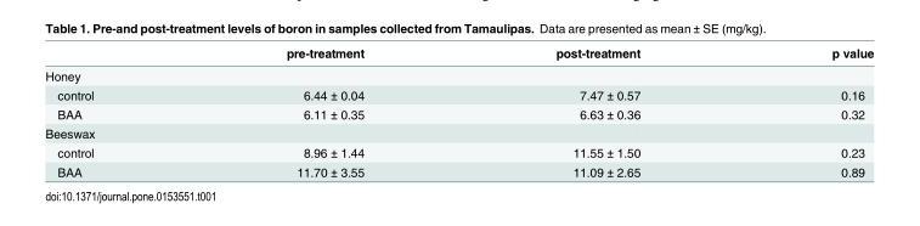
<table><thead><tr><td></td><td>pre-treatment</td><td>post-treatment</td><td>p value</td></tr></thead><tbody><tr><td colspan="4">Honey</td></tr><tr><td>control</td><td>6.44 ± 0.04</td><td>7.47 ± 0.57</td><td>0.16</td></tr><tr><td>BAA</td><td>6.11 ± 0.35</td><td>6.63 ± 0.36</td><td>0.32</td></tr><tr><td colspan="4">Beeswax</td></tr><tr><td>control</td><td>8.96 ± 1.44</td><td>11.55 ± 1.50</td><td>0.23</td></tr><tr><td>BAA</td><td>11.70 ± 3.55</td><td>11.09 ± 2.65</td><td>0.89</td></tr></tbody></table>